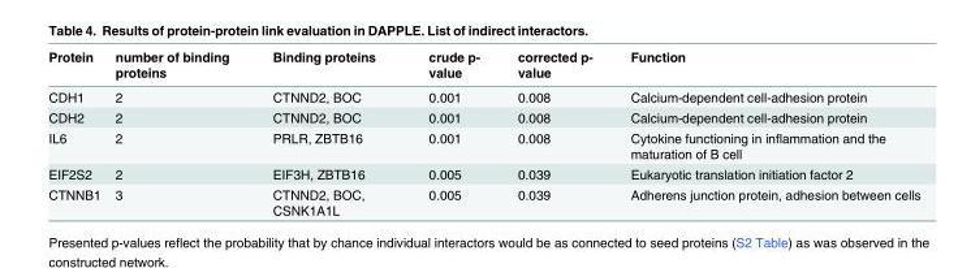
<table><thead><tr><td>Protein</td><td>number of binding proteins</td><td>Binding proteins</td><td>crude p- value</td><td>corrected p- value</td><td>Function</td></tr></thead><tbody><tr><td>CDH1</td><td>2</td><td>CTNND2, BOC</td><td>0.001</td><td>0.008</td><td>Calcium-dependent cell-adhesion protein</td></tr><tr><td>CDH2</td><td>2</td><td>CTNND2, BOC</td><td>0.001</td><td>0.008</td><td>Calcium-dependent cell-adhesion protein</td></tr><tr><td>IL6</td><td>2</td><td>PRLR, ZBTB16</td><td>0.001</td><td>0.008</td><td>Cytokine functioning in inflammation and the maturation of B cell</td></tr><tr><td>EIF2S2</td><td>2</td><td>EIF3H, ZBTB16</td><td>0.005</td><td>0.039</td><td>Eukaryotic translation initiation factor 2</td></tr><tr><td>CTNNB1</td><td>3</td><td>CTNND2, BOC, CSNK1A1L</td><td>0.005</td><td>0.039</td><td>Adherens junction protein, adhesion between cells</td></tr></tbody></table>